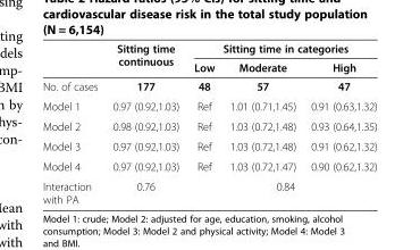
<table><thead><tr><td rowspan="2"></td><td rowspan="2">Sitting time continuous</td><td colspan="3">Sitting time in categories</td></tr><tr><td>Low</td><td>Moderate</td><td>High</td></tr></thead><tbody><tr><td>No. of cases</td><td>177</td><td>48</td><td>57</td><td>47</td></tr><tr><td>Model 1</td><td>0.97 (0.92,1.03)</td><td>Ref</td><td>1.01 (0.71,1.45)</td><td>0.91 (0.63,1.32)</td></tr><tr><td>Model 2</td><td>0.98 (0.92,1.03)</td><td>Ref</td><td>1.03 (0.72,1.48)</td><td>0.93 (0.64,1.35)</td></tr><tr><td>Model 3</td><td>0.97 (0.92,1.03)</td><td>Ref</td><td>1.03 (0.72,1.48)</td><td>0.91 (0.62,1.32)</td></tr><tr><td>Model 4</td><td>0.97 (0.92,1.03)</td><td>Ref</td><td>1.03 (0.72,1.47)</td><td>0.90 (0.62,1.32)</td></tr><tr><td>Interaction with PA</td><td>0.76</td><td colspan="3">0.84</td></tr></tbody></table>